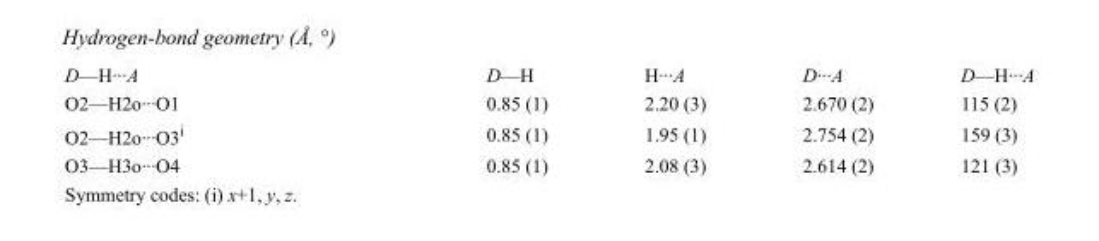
<table><tbody><tr><td>D—H···A</td><td>D—H</td><td>H···A</td><td>D···A</td><td>D—H···A</td></tr><tr><td>O2—H2o···O1</td><td>0.85 (1)</td><td>2.20 (3)</td><td>2.670 (2)</td><td>115 (2)</td></tr><tr><td>O2—H2o···O3<sup>i</sup></td><td>0.85 (1)</td><td>1.95 (1)</td><td>2.754 (2)</td><td>159 (3)</td></tr><tr><td>O3—H3o···O4</td><td>0.85 (1)</td><td>2.08 (3)</td><td>2.614 (2)</td><td>121 (3)</td></tr></tbody></table>